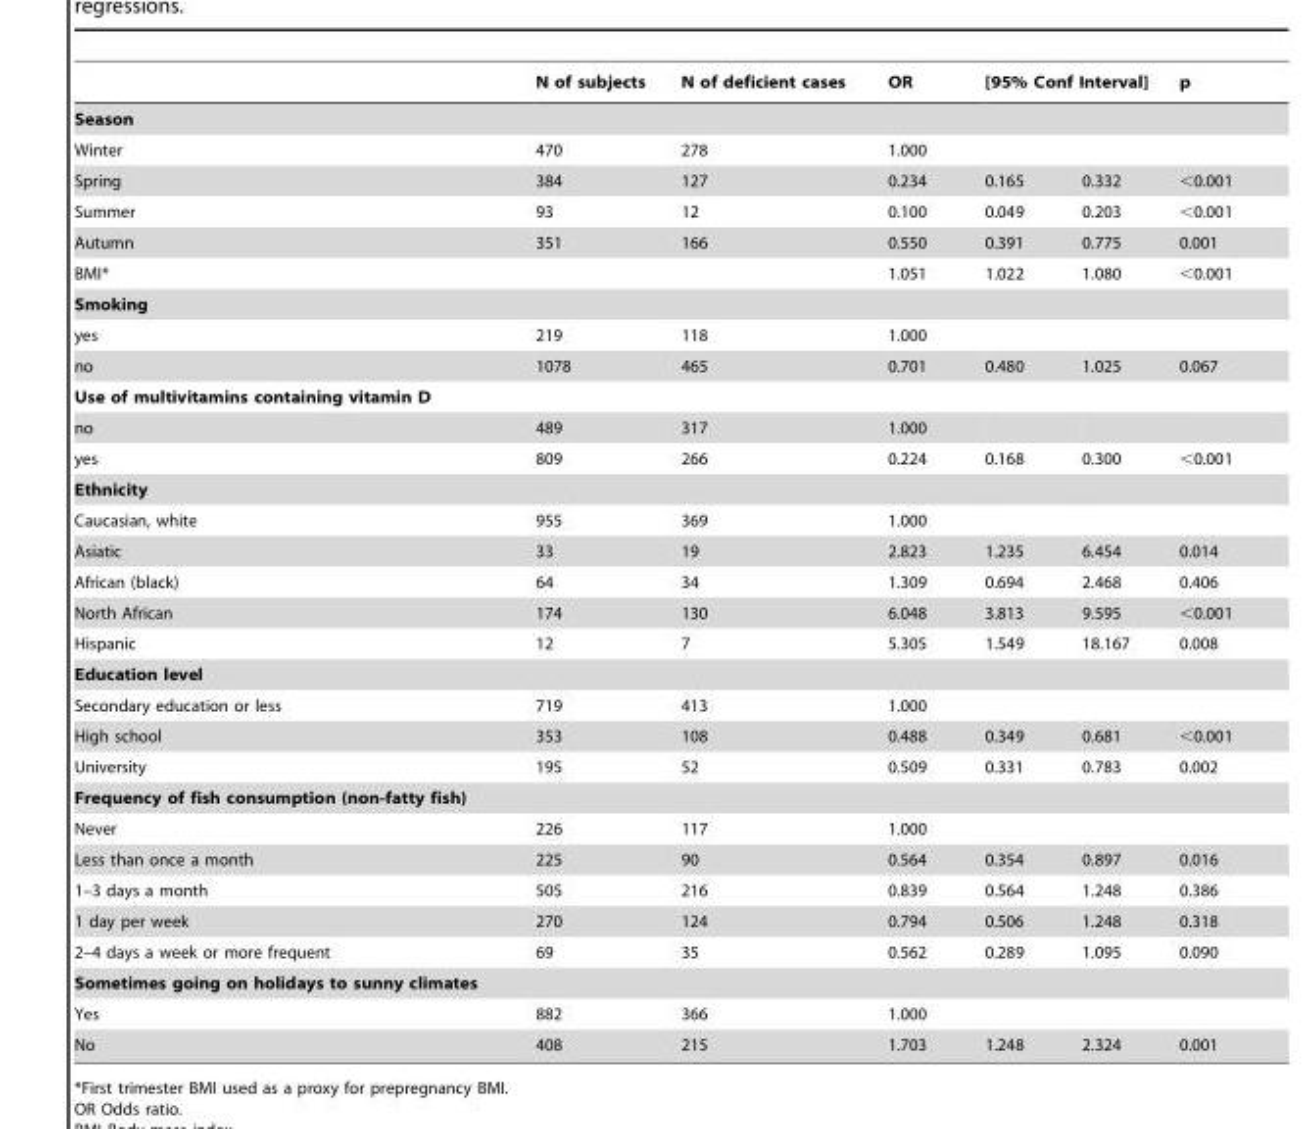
<table><thead><tr><td></td><td>N of subjects</td><td>N of deficient cases</td><td>OR</td><td colspan="2">[95% Conf Interval]</td><td>p</td></tr><tr><td colspan="7">Season</td></tr><tr><td>Winter</td><td>470</td><td>278</td><td>1.000</td><td></td><td></td><td></td></tr></thead><tbody><tr><td>Spring</td><td>384</td><td>127</td><td>0.234</td><td>0.165</td><td>0.332</td><td>&lt;0.001</td></tr><tr><td>Summer</td><td>93</td><td>12</td><td>0.100</td><td>0.049</td><td>0.203</td><td>&lt;0.001</td></tr><tr><td>Autumn</td><td>351</td><td>166</td><td>0.550</td><td>0.391</td><td>0.775</td><td>0.001</td></tr><tr><td>BMI*</td><td></td><td></td><td>1.051</td><td>1.022</td><td>1.080</td><td>&lt;0.001</td></tr><tr><td colspan="7">Smoking</td></tr><tr><td>yes</td><td>219</td><td>118</td><td>1.000</td><td></td><td></td><td></td></tr><tr><td>no</td><td>1078</td><td>465</td><td>0.701</td><td>0.480</td><td>1.025</td><td>0.067</td></tr><tr><td colspan="7">Use of multivitamins containing vitamin D</td></tr><tr><td>no</td><td>489</td><td>317</td><td>1.000</td><td></td><td></td><td></td></tr><tr><td>yes</td><td>809</td><td>266</td><td>0.224</td><td>0.168</td><td>0.300</td><td>&lt;0.001</td></tr><tr><td colspan="7">Ethnicity</td></tr><tr><td>Caucasian, white</td><td>955</td><td>369</td><td>1.000</td><td></td><td></td><td></td></tr><tr><td>Asiatic</td><td>33</td><td>19</td><td>2.823</td><td>1.235</td><td>6.454</td><td>0.014</td></tr><tr><td>African (black)</td><td>64</td><td>34</td><td>1.309</td><td>0.694</td><td>2.468</td><td>0.406</td></tr><tr><td>North African</td><td>174</td><td>130</td><td>6.048</td><td>3.813</td><td>9.595</td><td>&lt;0.001</td></tr><tr><td>Hispanic</td><td>12</td><td>7</td><td>5.305</td><td>1.549</td><td>18.167</td><td>0.008</td></tr><tr><td colspan="7">Education level</td></tr><tr><td>Secondary education or less</td><td>719</td><td>413</td><td>1.000</td><td></td><td></td><td></td></tr><tr><td>High school</td><td>353</td><td>108</td><td>0.488</td><td>0.349</td><td>0.681</td><td>&lt;0.001</td></tr><tr><td>University</td><td>195</td><td>52</td><td>0.509</td><td>0.331</td><td>0.783</td><td>0.002</td></tr><tr><td colspan="7">Frequency of fish consumption (non-fatty fish)</td></tr><tr><td>Never</td><td>226</td><td>117</td><td>1.000</td><td></td><td></td><td></td></tr><tr><td>Less than once a month</td><td>225</td><td>90</td><td>0.564</td><td>0.354</td><td>0.897</td><td>0.016</td></tr><tr><td>1–3 days a month</td><td>505</td><td>216</td><td>0.839</td><td>0.564</td><td>1.248</td><td>0.386</td></tr><tr><td>1 day per week</td><td>270</td><td>124</td><td>0.794</td><td>0.506</td><td>1.248</td><td>0.318</td></tr><tr><td>2–4 days a week or more frequent</td><td>69</td><td>35</td><td>0.562</td><td>0.289</td><td>1.095</td><td>0.090</td></tr><tr><td colspan="7">Sometimes going on holidays to sunny climates</td></tr><tr><td>Yes</td><td>882</td><td>366</td><td>1.000</td><td></td><td></td><td></td></tr><tr><td>No</td><td>408</td><td>215</td><td>1.703</td><td>1.248</td><td>2.324</td><td>0.001</td></tr></tbody></table>